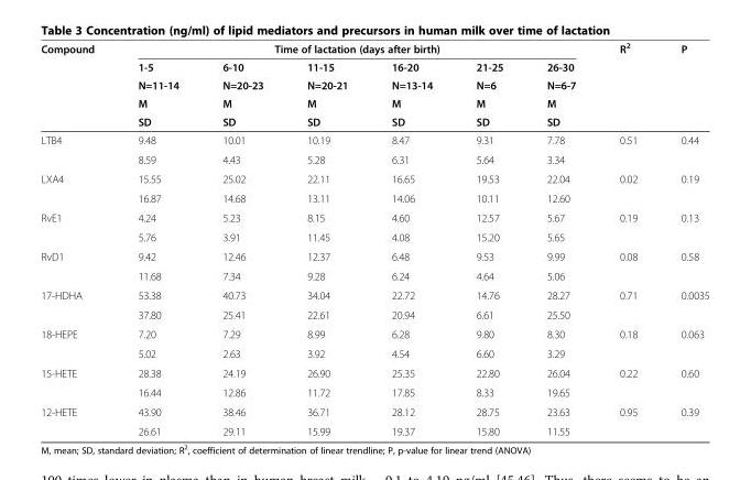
<table><thead><tr><td rowspan="5">Compound</td><td colspan="6">Time of lactation (days after birth)</td><td rowspan="5">R<sup>2</sup></td><td rowspan="5">P</td></tr><tr><td rowspan="4">1-5 N=11-14 M SD</td><td rowspan="4">6-10 N=20-23 M SD</td><td rowspan="4">11-15 N=20-21 M SD</td><td rowspan="4">16-20 N=13-14 M SD</td><td rowspan="4">21-25 N=6 M SD</td><td rowspan="4">26-30 N=6-7 M SD</td></tr><tr></tr><tr></tr><tr></tr></thead><tbody><tr><td rowspan="2">LTB4</td><td>9.48</td><td>10.01</td><td>10.19</td><td>8.47</td><td>9.31</td><td>7.78</td><td rowspan="2">0.51</td><td rowspan="2">0.44</td></tr><tr><td>8.59</td><td>4.43</td><td>5.28</td><td>6.31</td><td>5.64</td><td>3.34</td></tr><tr><td rowspan="2">LXA4</td><td>15.55</td><td>25.02</td><td>22.11</td><td>16.65</td><td>19.53</td><td>22.04</td><td rowspan="2">0.02</td><td rowspan="2">0.19</td></tr><tr><td>16.87</td><td>14.68</td><td>13.11</td><td>14.06</td><td>10.11</td><td>12.60</td></tr><tr><td rowspan="2">RvE1</td><td>4.24</td><td>5.23</td><td>8.15</td><td>4.60</td><td>12.57</td><td>5.67</td><td rowspan="2">0.19</td><td rowspan="2">0.13</td></tr><tr><td>5.76</td><td>3.91</td><td>11.45</td><td>4.08</td><td>15.20</td><td>5.65</td></tr><tr><td rowspan="2">RvD1</td><td>9.42</td><td>12.46</td><td>12.37</td><td>6.48</td><td>9.53</td><td>9.99</td><td rowspan="2">0.08</td><td rowspan="2">0.58</td></tr><tr><td>11.68</td><td>7.34</td><td>9.28</td><td>6.24</td><td>4.64</td><td>5.06</td></tr><tr><td rowspan="2">17-HDHA</td><td>53.38</td><td>40.73</td><td>34.04</td><td>22.72</td><td>14.76</td><td>28.27</td><td rowspan="2">0.71</td><td rowspan="2">0.0035</td></tr><tr><td>37.80</td><td>25.41</td><td>22.61</td><td>20.94</td><td>6.61</td><td>25.50</td></tr><tr><td rowspan="2">18-HEPE</td><td>7.20</td><td>7.29</td><td>8.99</td><td>6.28</td><td>9.80</td><td>8.30</td><td rowspan="2">0.18</td><td rowspan="2">0.063</td></tr><tr><td>5.02</td><td>2.63</td><td>3.92</td><td>4.54</td><td>6.60</td><td>3.29</td></tr><tr><td rowspan="2">15-HETE</td><td>28.38</td><td>24.19</td><td>26.90</td><td>25.35</td><td>22.80</td><td>26.04</td><td rowspan="2">0.22</td><td rowspan="2">0.60</td></tr><tr><td>16.44</td><td>12.86</td><td>11.72</td><td>17.85</td><td>8.33</td><td>19.65</td></tr><tr><td rowspan="2">12-HETE</td><td>43.90</td><td>38.46</td><td>36.71</td><td>28.12</td><td>28.75</td><td>23.63</td><td>0.95</td><td>0.39</td></tr><tr><td>26.61</td><td>29.11</td><td>15.99</td><td>19.37</td><td>15.80</td><td>11.55</td><td></td><td></td></tr></tbody></table>